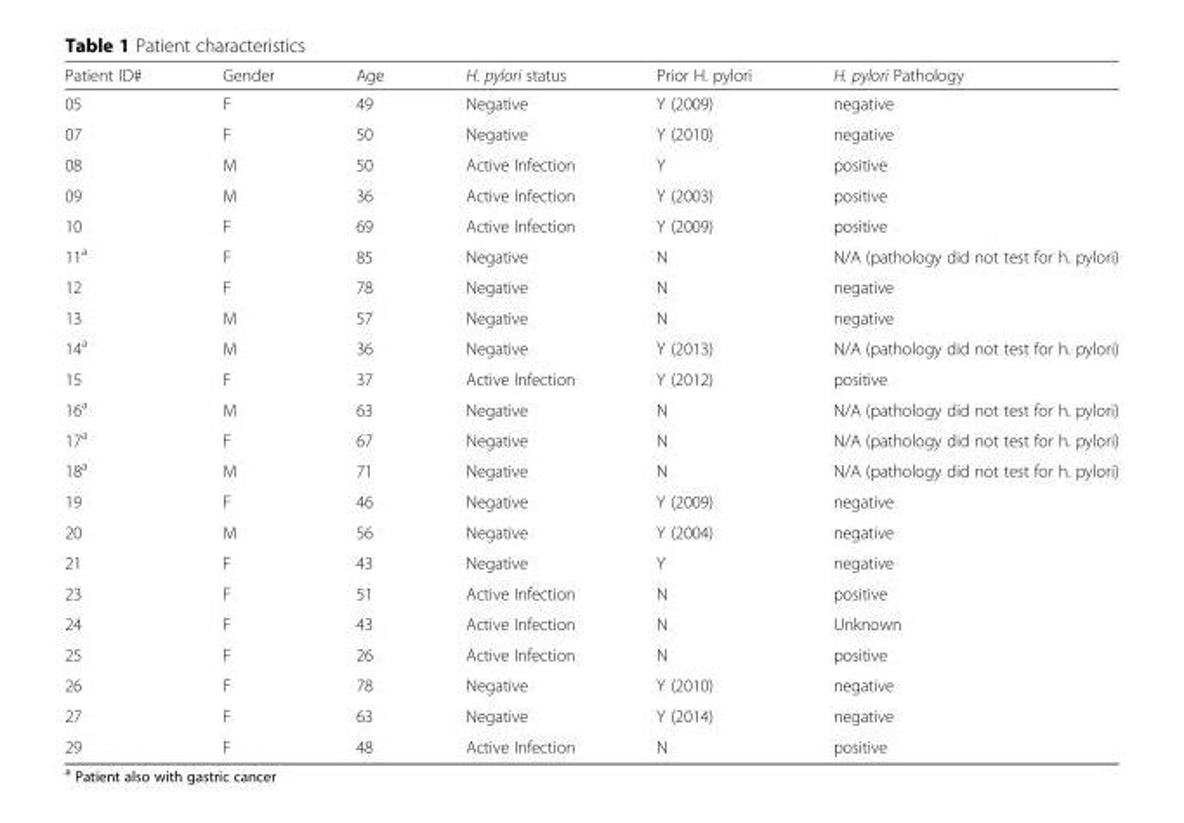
<table><thead><tr><td>Patient ID#</td><td>Gender</td><td>Age</td><td>H. pylori status</td><td>Prior H. pylori</td><td>H. pylori Pathology</td></tr></thead><tbody><tr><td>05</td><td>F</td><td>49</td><td>Negative</td><td>Y (2009)</td><td>negative</td></tr><tr><td>07</td><td>F</td><td>50</td><td>Negative</td><td>Y (2010)</td><td>negative</td></tr><tr><td>08</td><td>M</td><td>50</td><td>Active Infection</td><td>Y</td><td>positive</td></tr><tr><td>09</td><td>M</td><td>36</td><td>Active Infection</td><td>Y (2003)</td><td>positive</td></tr><tr><td>10</td><td>F</td><td>69</td><td>Active Infection</td><td>Y (2009)</td><td>positive</td></tr><tr><td>11<sup>a</sup></td><td>F</td><td>85</td><td>Negative</td><td>N</td><td>N/A (pathology did not test for h. pylori)</td></tr><tr><td>12</td><td>F</td><td>78</td><td>Negative</td><td>N</td><td>negative</td></tr><tr><td>13</td><td>M</td><td>57</td><td>Negative</td><td>N</td><td>negative</td></tr><tr><td>14<sup>a</sup></td><td>M</td><td>36</td><td>Negative</td><td>Y (2013)</td><td>N/A (pathology did not test for h. pylori)</td></tr><tr><td>15</td><td>F</td><td>37</td><td>Active Infection</td><td>Y (2012)</td><td>positive</td></tr><tr><td>16<sup>a</sup></td><td>M</td><td>63</td><td>Negative</td><td>N</td><td>N/A (pathology did not test for h. pylori)</td></tr><tr><td>17<sup>a</sup></td><td>F</td><td>67</td><td>Negative</td><td>N</td><td>N/A (pathology did not test for h. pylori)</td></tr><tr><td>18<sup>a</sup></td><td>M</td><td>71</td><td>Negative</td><td>N</td><td>N/A (pathology did not test for h. pylori)</td></tr><tr><td>19</td><td>F</td><td>46</td><td>Negative</td><td>Y (2009)</td><td>negative</td></tr><tr><td>20</td><td>M</td><td>56</td><td>Negative</td><td>Y (2004)</td><td>negative</td></tr><tr><td>21</td><td>F</td><td>43</td><td>Negative</td><td>Y</td><td>negative</td></tr><tr><td>23</td><td>F</td><td>51</td><td>Active Infection</td><td>N</td><td>positive</td></tr><tr><td>24</td><td>F</td><td>43</td><td>Active Infection</td><td>N</td><td>Unknown</td></tr><tr><td>25</td><td>F</td><td>26</td><td>Active Infection</td><td>N</td><td>positive</td></tr><tr><td>26</td><td>F</td><td>78</td><td>Negative</td><td>Y (2010)</td><td>negative</td></tr><tr><td>27</td><td>F</td><td>63</td><td>Negative</td><td>Y (2014)</td><td>negative</td></tr><tr><td>29</td><td>F</td><td>48</td><td>Active Infection</td><td>N</td><td>positive</td></tr></tbody></table>